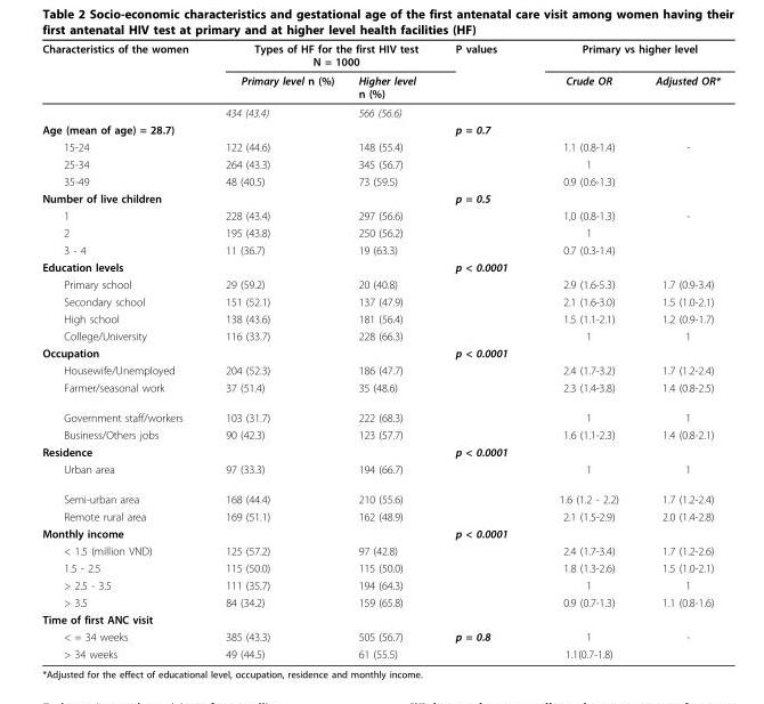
<table><thead><tr><td rowspan="2">Characteristics of the women</td><td colspan="2">Types of HF for the first HIV test N = 1000</td><td rowspan="2">P values</td><td colspan="2">Primary vs higher level</td></tr><tr><td>Primary level n (%)</td><td>Higher level n (%)</td><td>Crude OR</td><td>Adjusted OR*</td></tr></thead><tbody><tr><td></td><td>434 (43.4)</td><td>566 (56.6)</td><td></td><td></td><td></td></tr><tr><td>Age (mean of age) = 28.7)</td><td></td><td></td><td>p = 0.7</td><td></td><td></td></tr><tr><td>15-24</td><td>122 (44.6)</td><td>148 (55.4)</td><td></td><td>1.1 (0.8-1.4)</td><td>-</td></tr><tr><td>25-34</td><td>264 (43.3)</td><td>345 (56.7)</td><td></td><td>1</td><td></td></tr><tr><td>35-49</td><td>48 (40.5)</td><td>73 (59.5)</td><td></td><td>0.9 (0.6-1.3)</td><td></td></tr><tr><td>Number of live children</td><td></td><td></td><td>p = 0.5</td><td></td><td></td></tr><tr><td>1</td><td>228 (43.4)</td><td>297 (56.6)</td><td></td><td>1,0 (0.8-1.3)</td><td>-</td></tr><tr><td>2</td><td>195 (43.8)</td><td>250 (56.2)</td><td></td><td>1</td><td></td></tr><tr><td>3 - 4</td><td>11 (36.7)</td><td>19 (63.3)</td><td></td><td>0.7 (0.3-1.4)</td><td></td></tr><tr><td>Education levels</td><td></td><td></td><td>p &lt; 0.0001</td><td></td><td></td></tr><tr><td>Primary school</td><td>29 (59.2)</td><td>20 (40.8)</td><td></td><td>2.9 (1.6-5.3)</td><td>1.7 (0.9-3.4)</td></tr><tr><td>Secondary school</td><td>151 (52.1)</td><td>137 (47.9)</td><td></td><td>2.1 (1.6-3.0)</td><td>1.5 (1.0-2.1)</td></tr><tr><td>High school</td><td>138 (43.6)</td><td>181 (56.4)</td><td></td><td>1.5 (1.1-2.1)</td><td>1.2 (0.9-1.7)</td></tr><tr><td>College/University</td><td>116 (33.7)</td><td>228 (66.3)</td><td></td><td>1</td><td>1</td></tr><tr><td>Occupation</td><td></td><td></td><td>p &lt; 0.0001</td><td></td><td></td></tr><tr><td>Housewife/Unemployed</td><td>204 (52.3)</td><td>186 (47.7)</td><td></td><td>2.4 (1.7-3.2)</td><td>1.7 (1.2-2.4)</td></tr><tr><td>Farmer/seasonal work</td><td>37 (51.4)</td><td>35 (48.6)</td><td></td><td>2.3 (1.4-3.8)</td><td>1.4 (0.8-2.5)</td></tr><tr><td>Government staff/workers</td><td>103 (31.7)</td><td>222 (68.3)</td><td></td><td>1</td><td>1</td></tr><tr><td>Business/Others jobs</td><td>90 (42.3)</td><td>123 (57.7)</td><td></td><td>1.6 (1.1-2.3)</td><td>1.4 (0.8-2.1)</td></tr><tr><td>Residence</td><td></td><td></td><td>p &lt; 0.0001</td><td></td><td></td></tr><tr><td>Urban area</td><td>97 (33.3)</td><td>194 (66.7)</td><td></td><td>1</td><td>1</td></tr><tr><td>Semi-urban area</td><td>168 (44.4)</td><td>210 (55.6)</td><td></td><td>1.6 (1.2 - 2.2)</td><td>1.7 (1.2-2.4)</td></tr><tr><td>Remote rural area</td><td>169 (51.1)</td><td>162 (48.9)</td><td></td><td>2.1 (1.5-2.9)</td><td>2.0 (1.4-2.8)</td></tr><tr><td>Monthly income</td><td></td><td></td><td>p &lt; 0.0001</td><td></td><td></td></tr><tr><td>&lt; 1.5 (million VND)</td><td>125 (57.2)</td><td>97 (42.8)</td><td></td><td>2.4 (1.7-3.4)</td><td>1.7 (1.2-2.6)</td></tr><tr><td>1.5 - 2.5</td><td>115 (50.0)</td><td>115 (50.0)</td><td></td><td>1.8 (1.3-2.6)</td><td>1.5 (1.0-2.1)</td></tr><tr><td>&gt; 2.5 - 3.5</td><td>111 (35.7)</td><td>194 (64.3)</td><td></td><td>1</td><td>1</td></tr><tr><td>&gt; 3.5</td><td>84 (34.2)</td><td>159 (65.8)</td><td></td><td>0.9 (0.7-1.3)</td><td>1.1 (0.8-1.6)</td></tr><tr><td colspan="6">Time of first ANC visit</td></tr><tr><td>&lt; = 34 weeks</td><td>385 (43.3)</td><td>505 (56.7)</td><td>p = 0.8</td><td>1</td><td>-</td></tr><tr><td>&gt; 34 weeks</td><td>49 (44.5)</td><td>61 (55.5)</td><td></td><td>1.1(0.7-1.8)</td><td></td></tr></tbody></table>